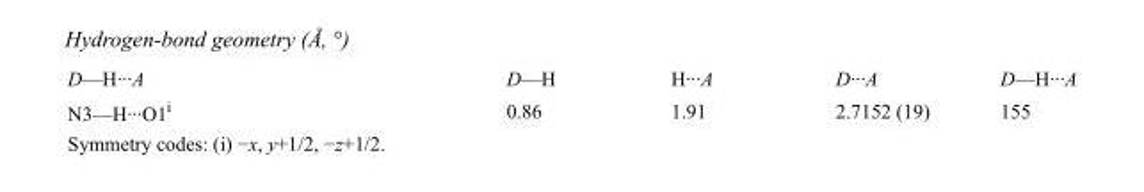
<table><tbody><tr><td>D—H···A</td><td>D—H</td><td>H···A</td><td>D···A</td><td>D—H···A</td></tr><tr><td>N3—H···O1<sup>i</sup></td><td>0.86</td><td>1.91</td><td>2.7152 (19)</td><td>155</td></tr></tbody></table>